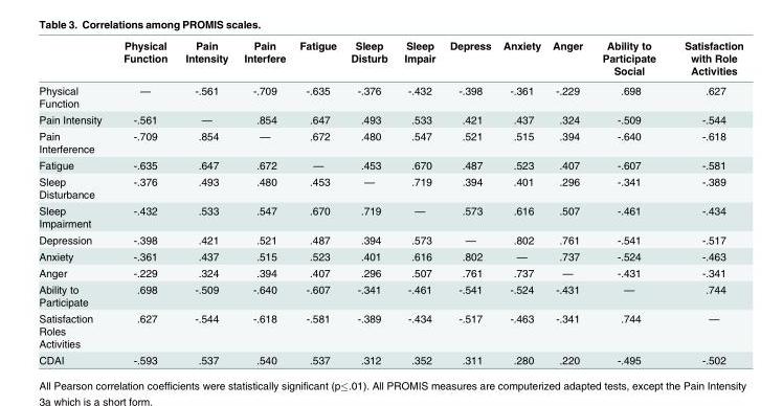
<table><thead><tr><td></td><td>Physical Function</td><td>Pain Intensity</td><td>Pain Interfere</td><td>Fatigue</td><td>Sleep Disturb</td><td>Sleep Impair</td><td>Depress</td><td>Anxiety</td><td>Anger</td><td>Ability to Participate Social</td><td>Satisfaction with Role Activities</td></tr></thead><tbody><tr><td>Physical Function</td><td>—</td><td>-.561</td><td>-.709</td><td>-.635</td><td>-.376</td><td>-.432</td><td>-.398</td><td>-.361</td><td>-.229</td><td>.698</td><td>.627</td></tr><tr><td>Pain Intensity</td><td>-.561</td><td>—</td><td>.854</td><td>.647</td><td>.493</td><td>.533</td><td>.421</td><td>.437</td><td>.324</td><td>-.509</td><td>-.544</td></tr><tr><td>Pain Interference</td><td>-.709</td><td>.854</td><td>—</td><td>.672</td><td>.480</td><td>.547</td><td>.521</td><td>.515</td><td>.394</td><td>-.640</td><td>-.618</td></tr><tr><td>Fatigue</td><td>-.635</td><td>.647</td><td>.672</td><td>—</td><td>.453</td><td>.670</td><td>.487</td><td>.523</td><td>.407</td><td>-.607</td><td>-.581</td></tr><tr><td>Sleep Disturbance</td><td>-.376</td><td>.493</td><td>.480</td><td>.453</td><td>—</td><td>.719</td><td>.394</td><td>.401</td><td>.296</td><td>-.341</td><td>-.389</td></tr><tr><td>Sleep Impairment</td><td>-.432</td><td>.533</td><td>.547</td><td>.670</td><td>.719</td><td>—</td><td>.573</td><td>.616</td><td>.507</td><td>-.461</td><td>-.434</td></tr><tr><td>Depression</td><td>-.398</td><td>.421</td><td>.521</td><td>.487</td><td>.394</td><td>.573</td><td>—</td><td>.802</td><td>.761</td><td>-.541</td><td>-.517</td></tr><tr><td>Anxiety</td><td>-.361</td><td>.437</td><td>.515</td><td>.523</td><td>.401</td><td>.616</td><td>.802</td><td>—</td><td>.737</td><td>-.524</td><td>-.463</td></tr><tr><td>Anger</td><td>-.229</td><td>.324</td><td>.394</td><td>.407</td><td>.296</td><td>.507</td><td>.761</td><td>.737</td><td>—</td><td>-.431</td><td>-.341</td></tr><tr><td>Ability to Participate</td><td>.698</td><td>-.509</td><td>-.640</td><td>-.607</td><td>-.341</td><td>-.461</td><td>-.541</td><td>-.524</td><td>-.431</td><td>—</td><td>.744</td></tr><tr><td>Satisfaction Roles Activities</td><td>.627</td><td>-.544</td><td>-.618</td><td>-.581</td><td>-.389</td><td>-.434</td><td>-.517</td><td>-.463</td><td>-.341</td><td>.744</td><td>—</td></tr><tr><td>CDAI</td><td>-.593</td><td>.537</td><td>.540</td><td>.537</td><td>.312</td><td>.352</td><td>.311</td><td>.280</td><td>.220</td><td>-.495</td><td>-.502</td></tr></tbody></table>